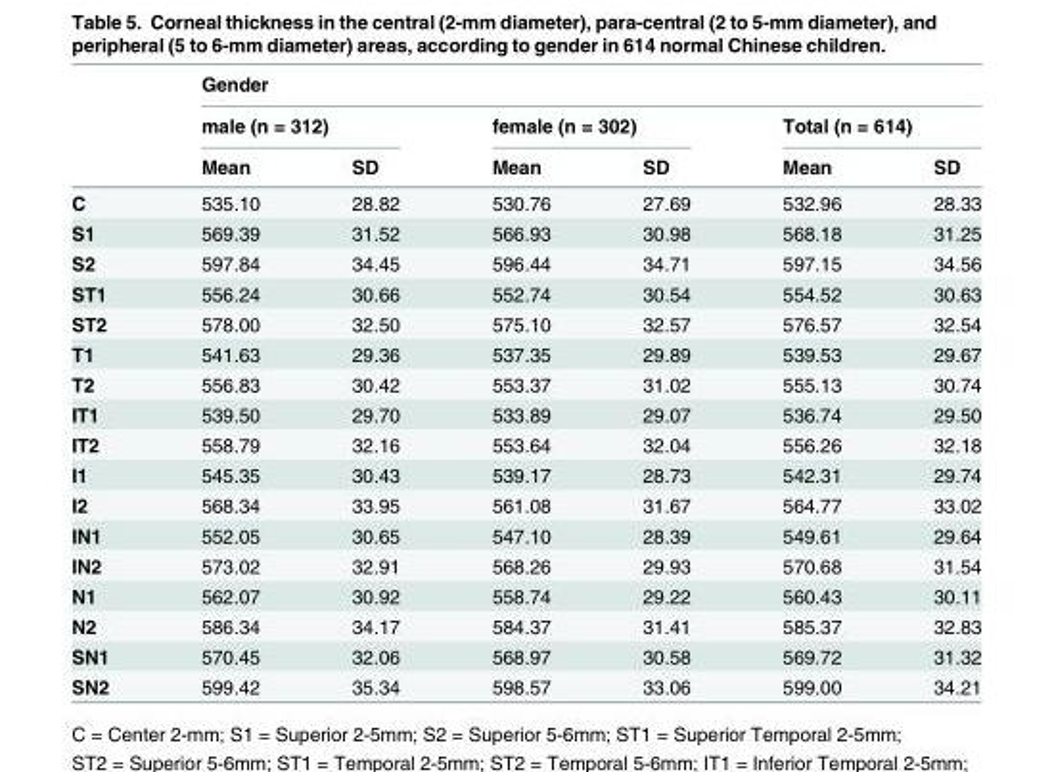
<table><thead><tr><td rowspan="3"></td><td colspan="6">Gender</td></tr><tr><td colspan="2">male (n = 312)</td><td colspan="2">female (n = 302)</td><td colspan="2">Total (n = 614)</td></tr><tr><td>Mean</td><td>SD</td><td>Mean</td><td>SD</td><td>Mean</td><td>SD</td></tr></thead><tbody><tr><td>C</td><td>535.10</td><td>28.82</td><td>530.76</td><td>27.69</td><td>532.96</td><td>28.33</td></tr><tr><td>S1</td><td>569.39</td><td>31.52</td><td>566.93</td><td>30.98</td><td>568.18</td><td>31.25</td></tr><tr><td>S2</td><td>597.84</td><td>34.45</td><td>596.44</td><td>34.71</td><td>597.15</td><td>34.56</td></tr><tr><td>ST1</td><td>556.24</td><td>30.66</td><td>552.74</td><td>30.54</td><td>554.52</td><td>30.63</td></tr><tr><td>ST2</td><td>578.00</td><td>32.50</td><td>575.10</td><td>32.57</td><td>576.57</td><td>32.54</td></tr><tr><td>T1</td><td>541.63</td><td>29.36</td><td>537.35</td><td>29.89</td><td>539.53</td><td>29.67</td></tr><tr><td>T2</td><td>556.83</td><td>30.42</td><td>553.37</td><td>31.02</td><td>555.13</td><td>30.74</td></tr><tr><td>IT1</td><td>539.50</td><td>29.70</td><td>533.89</td><td>29.07</td><td>536.74</td><td>29.50</td></tr><tr><td>IT2</td><td>558.79</td><td>32.16</td><td>553.64</td><td>32.04</td><td>556.26</td><td>32.18</td></tr><tr><td>I1</td><td>545.35</td><td>30.43</td><td>539.17</td><td>28.73</td><td>542.31</td><td>29.74</td></tr><tr><td>I2</td><td>568.34</td><td>33.95</td><td>561.08</td><td>31.67</td><td>564.77</td><td>33.02</td></tr><tr><td>IN1</td><td>552.05</td><td>30.65</td><td>547.10</td><td>28.39</td><td>549.61</td><td>29.64</td></tr><tr><td>IN2</td><td>573.02</td><td>32.91</td><td>568.26</td><td>29.93</td><td>570.68</td><td>31.54</td></tr><tr><td>N1</td><td>562.07</td><td>30.92</td><td>558.74</td><td>29.22</td><td>560.43</td><td>30.11</td></tr><tr><td>N2</td><td>586.34</td><td>34.17</td><td>584.37</td><td>31.41</td><td>585.37</td><td>32.83</td></tr><tr><td>SN1</td><td>570.45</td><td>32.06</td><td>568.97</td><td>30.58</td><td>569.72</td><td>31.32</td></tr><tr><td>SN2</td><td>599.42</td><td>35.34</td><td>598.57</td><td>33.06</td><td>599.00</td><td>34.21</td></tr></tbody></table>